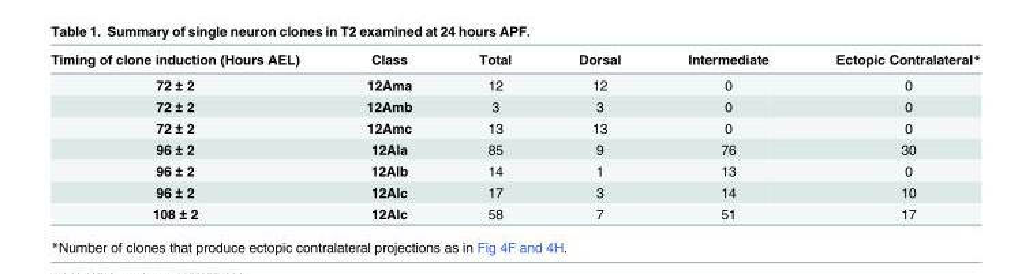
<table><thead><tr><td>Timing of clone induction (Hours AEL)</td><td>Class</td><td>Total</td><td>Dorsal</td><td>Intermediate</td><td>Ectopic Contralateral*</td></tr></thead><tbody><tr><td>72 ± 2</td><td>12Ama</td><td>12</td><td>12</td><td>0</td><td>0</td></tr><tr><td>72 ± 2</td><td>12Amb</td><td>3</td><td>3</td><td>0</td><td>0</td></tr><tr><td>72 ± 2</td><td>12Amc</td><td>13</td><td>13</td><td>0</td><td>0</td></tr><tr><td>96 ± 2</td><td>12Ala</td><td>85</td><td>9</td><td>76</td><td>30</td></tr><tr><td>96 ± 2</td><td>12Alb</td><td>14</td><td>1</td><td>13</td><td>0</td></tr><tr><td>96 ± 2</td><td>12Alc</td><td>17</td><td>3</td><td>14</td><td>10</td></tr><tr><td>108 ± 2</td><td>12Alc</td><td>58</td><td>7</td><td>51</td><td>17</td></tr></tbody></table>